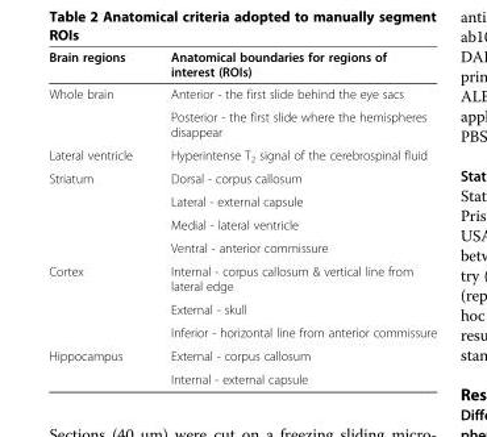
<table><thead><tr><td>Brain regions</td><td>Anatomical boundaries for regions of interest (ROIs)</td></tr></thead><tbody><tr><td rowspan="2">Whole brain</td><td>Anterior - the first slide behind the eye sacs</td></tr><tr><td>Posterior - the first slide where the hemispheres disappear</td></tr><tr><td>Lateral ventricle</td><td>Hyperintense T<sub>2</sub> signal of the cerebrospinal fluid</td></tr><tr><td rowspan="4">Striatum</td><td>Dorsal - corpus callosum</td></tr><tr><td>Lateral - external capsule</td></tr><tr><td>Medial - lateral ventricle</td></tr><tr><td>Ventral - anterior commissure</td></tr><tr><td rowspan="3">Cortex</td><td>Internal - corpus callosum &amp; vertical line from lateral edge</td></tr><tr><td>External - skull</td></tr><tr><td>Inferior - horizontal line from anterior commissure</td></tr><tr><td rowspan="2">Hippocampus</td><td>External - corpus callosum</td></tr><tr><td>Internal - external capsule</td></tr></tbody></table>